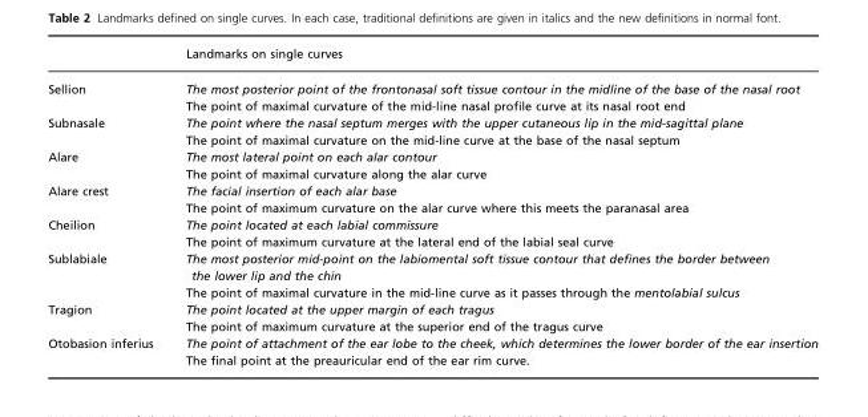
<table><thead><tr><td></td><td>Landmarks on single curves</td></tr></thead><tbody><tr><td rowspan="2">Sellion</td><td>The most posterior point of the frontonasal soft tissue contour in the midline of the base of the nasal root</td></tr><tr><td>The point of maximal curvature of the mid-line nasal profile curve at its nasal root end</td></tr><tr><td rowspan="2">Subnasale</td><td>The point where the nasal septum merges with the upper cutaneous lip in the mid-sagittal plane</td></tr><tr><td>The point of maximal curvature on the mid-line curve at the base of the nasal septum</td></tr><tr><td rowspan="2">Alare</td><td>The most lateral point on each alar contour</td></tr><tr><td>The point of maximal curvature along the alar curve</td></tr><tr><td rowspan="2">Alare crest</td><td>The facial insertion of each alar base</td></tr><tr><td>The point of maximum curvature on the alar curve where this meets the paranasal area</td></tr><tr><td rowspan="2">Cheilion</td><td>The point located at each labial commissure</td></tr><tr><td>The point of maximum curvature at the lateral end of the labial seal curve</td></tr><tr><td rowspan="2">Sublabiale</td><td>The most posterior mid-point on the labiomental soft tissue contour that defines the border between the lower lip and the chin</td></tr><tr><td>The point of maximal curvature in the mid-line curve as it passes through the mentolabial sulcus</td></tr><tr><td rowspan="2">Tragion</td><td>The point located at the upper margin of each tragus</td></tr><tr><td>The point of maximum curvature at the superior end of the tragus curve</td></tr><tr><td rowspan="2">Otobasion inferius</td><td>The point of attachment of the ear lobe to the cheek, which determines the lower border of the ear insertion</td></tr><tr><td>The final point at the preauricular end of the ear rim curve.</td></tr></tbody></table>